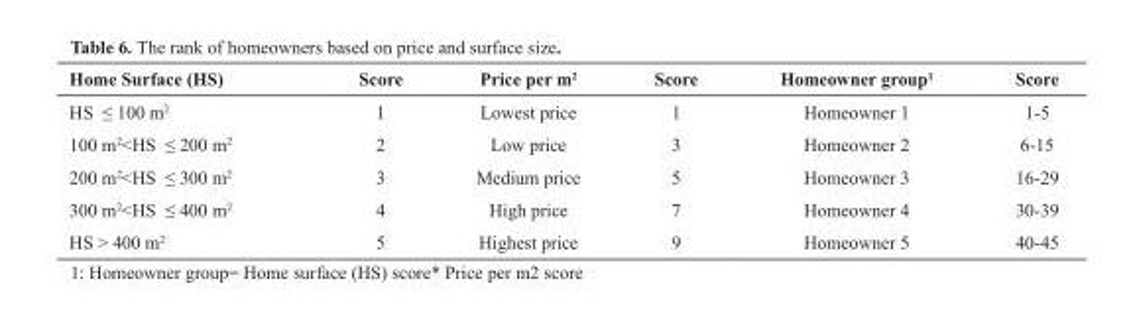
<table><thead><tr><td>Home Surface (HS)</td><td>Score</td><td>Price per m<sup>2</sup></td><td>Score</td><td>Homeowner group<sup>1</sup></td><td>Score</td></tr></thead><tbody><tr><td>HS ≤ 100 m <sup>2</sup></td><td>1</td><td>Lowest price</td><td>1</td><td>Homeowner 1</td><td>1-5</td></tr><tr><td>100 m <sup>2</sup>&lt;HS ≤ 200 m <sup>2</sup></td><td>2</td><td>Low price</td><td>3</td><td>Homeowner 2</td><td>6-15</td></tr><tr><td>200 m <sup>2</sup>&lt;HS ≤ 300 m <sup>2</sup></td><td>3</td><td>Medium price</td><td>5</td><td>Homeowner 3</td><td>16-29</td></tr><tr><td>300 m <sup>2</sup>&lt;HS ≤ 400 m <sup>2</sup></td><td>4</td><td>High price</td><td>7</td><td>Homeowner 4</td><td>30-39</td></tr><tr><td>HS &gt; 400 m <sup>2</sup></td><td>5</td><td>Highest price</td><td>9</td><td>Homeowner 5</td><td>40-45</td></tr></tbody></table>